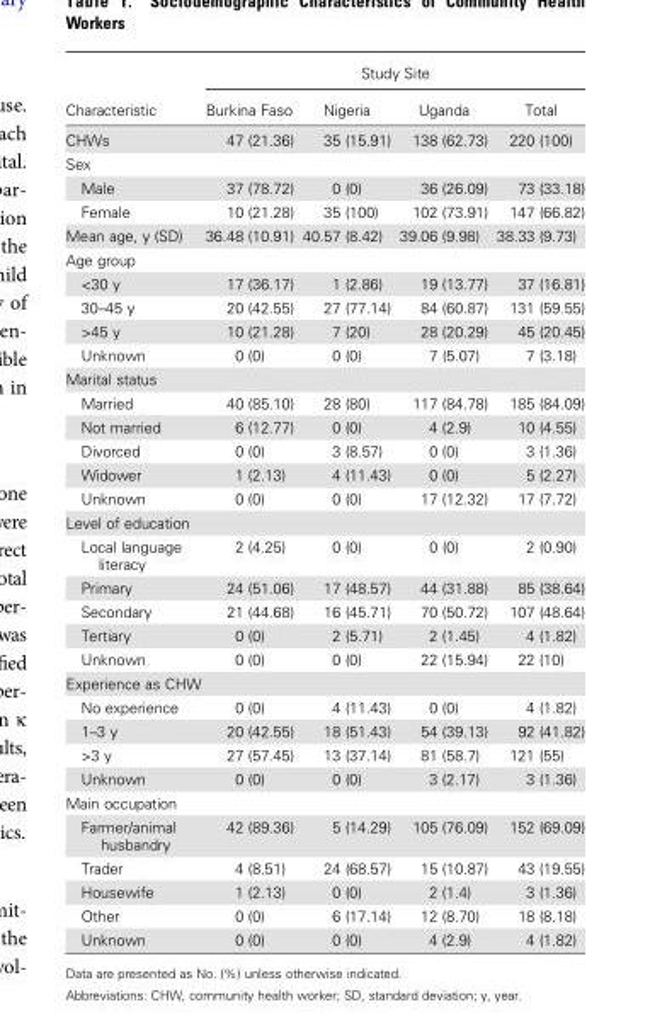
<table><thead><tr><td rowspan="2">Characteristic</td><td colspan="4">Study Site</td></tr><tr><td>Burkina Faso</td><td>Nigeria</td><td>Uganda</td><td>Total</td></tr></thead><tbody><tr><td>CHWs</td><td>47 (21.36)</td><td>35 (15.91)</td><td>138 (62.73)</td><td>220 (100)</td></tr><tr><td colspan="5">Sex</td></tr><tr><td>Male</td><td>37 (78.72)</td><td>0 (0)</td><td>36 (26.09)</td><td>73 (33.18)</td></tr><tr><td>Female</td><td>10 (21.28)</td><td>35 (100)</td><td>102 (73.91)</td><td>147 (66.82)</td></tr><tr><td>Mean age, y (SD)</td><td>36.48 (10.91)</td><td>40.57 (8.42)</td><td>39.06 (9.98)</td><td>38.33 (9.73)</td></tr><tr><td colspan="5">Age group</td></tr><tr><td>&lt;30 y</td><td>17 (36.17)</td><td>1 (2.86)</td><td>19 (13.77)</td><td>37 (16.81)</td></tr><tr><td>30–45 y</td><td>20 (42.55)</td><td>27 (77.14)</td><td>84 (60.87)</td><td>131 (59.55)</td></tr><tr><td>&gt;45 y</td><td>10 (21.28)</td><td>7 (20)</td><td>28 (20.29)</td><td>45 (20.45)</td></tr><tr><td>Unknown</td><td>0 (0)</td><td>0 (0)</td><td>7 (5.07)</td><td>7 (3.18)</td></tr><tr><td colspan="5">Marital status</td></tr><tr><td>Married</td><td>40 (85.10)</td><td>28 (80)</td><td>117 (84.78)</td><td>185 (84.09)</td></tr><tr><td>Not married</td><td>6 (12.77)</td><td>0 (0)</td><td>4 (2.9)</td><td>10 (4.55)</td></tr><tr><td>Divorced</td><td>0 (0)</td><td>3 (8.57)</td><td>0 (0)</td><td>3 (1.36)</td></tr><tr><td>Widower</td><td>1 (2.13)</td><td>4 (11.43)</td><td>0 (0)</td><td>5 (2.27)</td></tr><tr><td>Unknown</td><td>0 (0)</td><td>0 (0)</td><td>17 (12.32)</td><td>17 (7.72)</td></tr><tr><td colspan="5">Level of education</td></tr><tr><td>Local language literacy</td><td>2 (4.25)</td><td>0 (0)</td><td>0 (0)</td><td>2 (0.90)</td></tr><tr><td>Primary</td><td>24 (51.06)</td><td>17 (48.57)</td><td>44 (31.88)</td><td>85 (38.64)</td></tr><tr><td>Secondary</td><td>21 (44.68)</td><td>16 (45.71)</td><td>70 (50.72)</td><td>107 (48.64)</td></tr><tr><td>Tertiary</td><td>0 (0)</td><td>2 (5.71)</td><td>2 (1.45)</td><td>4 (1.82)</td></tr><tr><td>Unknown</td><td>0 (0)</td><td>0 (0)</td><td>22 (15.94)</td><td>22 (10)</td></tr><tr><td colspan="5">Experience as CHW</td></tr><tr><td>No experience</td><td>0 (0)</td><td>4 (11.43)</td><td>0 (0)</td><td>4 (1.82)</td></tr><tr><td>1–3 y</td><td>20 (42.55)</td><td>18 (51.43)</td><td>54 (39.13)</td><td>92 (41.82)</td></tr><tr><td>&gt;3 y</td><td>27 (57.45)</td><td>13 (37.14)</td><td>81 (58.7)</td><td>121 (55)</td></tr><tr><td>Unknown</td><td>0 (0)</td><td>0 (0)</td><td>3 (2.17)</td><td>3 (1.36)</td></tr><tr><td colspan="5">Main occupation</td></tr><tr><td>Farmer/animal husbandry</td><td>42 (89.36)</td><td>5 (14.29)</td><td>105 (76.09)</td><td>152 (69.09)</td></tr><tr><td>Trader</td><td>4 (8.51)</td><td>24 (68.57)</td><td>15 (10.87)</td><td>43 (19.55)</td></tr><tr><td>Housewife</td><td>1 (2.13)</td><td>0 (0)</td><td>2 (1.4)</td><td>3 (1.36)</td></tr><tr><td>Other</td><td>0 (0)</td><td>6 (17.14)</td><td>12 (8.70)</td><td>18 (8.18)</td></tr><tr><td>Unknown</td><td>0 (0)</td><td>0 (0)</td><td>4 (2.9)</td><td>4 (1.82)</td></tr></tbody></table>